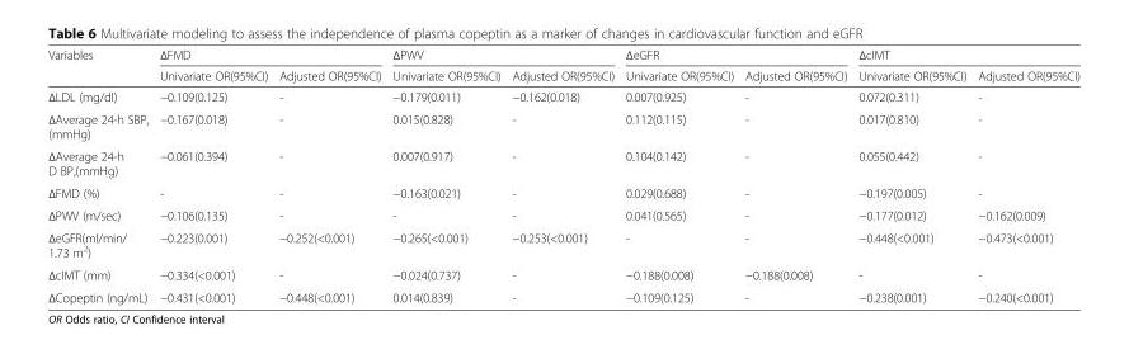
<table><thead><tr><td rowspan="2">Variables</td><td colspan="2">ΔFMD</td><td colspan="2">ΔPWV</td><td colspan="2">ΔeGFR</td><td colspan="2">ΔcIMT</td></tr><tr><td>Univariate OR(95%CI)</td><td>Adjusted OR(95%CI)</td><td>Univariate OR(95%CI)</td><td>Adjusted OR(95%CI)</td><td>Univariate OR(95%CI)</td><td>Adjusted OR(95%CI)</td><td>Univariate OR(95%CI)</td><td>Adjusted OR(95%CI)</td></tr></thead><tbody><tr><td>ΔLDL (mg/dl)</td><td>−0.109(0.125)</td><td>-</td><td>−0.179(0.011)</td><td>−0.162(0.018)</td><td>0.007(0.925)</td><td>-</td><td>0.072(0.311)</td><td>-</td></tr><tr><td>ΔAverage 24-h SBP, (mmHg)</td><td>−0.167(0.018)</td><td>-</td><td>0.015(0.828)</td><td>-</td><td>0.112(0.115)</td><td>-</td><td>0.017(0.810)</td><td>-</td></tr><tr><td>ΔAverage 24-h D BP,(mmHg)</td><td>−0.061(0.394)</td><td>-</td><td>0.007(0.917)</td><td>-</td><td>0.104(0.142)</td><td>-</td><td>0.055(0.442)</td><td>-</td></tr><tr><td>ΔFMD (%)</td><td>-</td><td>-</td><td>−0.163(0.021)</td><td>-</td><td>0.029(0.688)</td><td>-</td><td>−0.197(0.005)</td><td>-</td></tr><tr><td>ΔPWV (m/sec)</td><td>−0.106(0.135)</td><td>-</td><td>-</td><td>-</td><td>0.041(0.565)</td><td>-</td><td>−0.177(0.012)</td><td>−0.162(0.009)</td></tr><tr><td>ΔeGFR(ml/min/ 1.73 m<sup>2</sup>)</td><td>−0.223(0.001)</td><td>−0.252(&lt;0.001)</td><td>−0.265(&lt;0.001)</td><td>−0.253(&lt;0.001)</td><td>-</td><td>-</td><td>−0.448(&lt;0.001)</td><td>−0.473(&lt;0.001)</td></tr><tr><td>ΔcIMT (mm)</td><td>−0.334(&lt;0.001)</td><td>-</td><td>−0.024(0.737)</td><td>-</td><td>−0.188(0.008)</td><td>−0.188(0.008)</td><td>-</td><td>-</td></tr><tr><td>ΔCopeptin (ng/mL)</td><td>−0.431(&lt;0.001)</td><td>−0.448(&lt;0.001)</td><td>0.014(0.839)</td><td>-</td><td>−0.109(0.125)</td><td>-</td><td>−0.238(0.001)</td><td>−0.240(&lt;0.001)</td></tr></tbody></table>